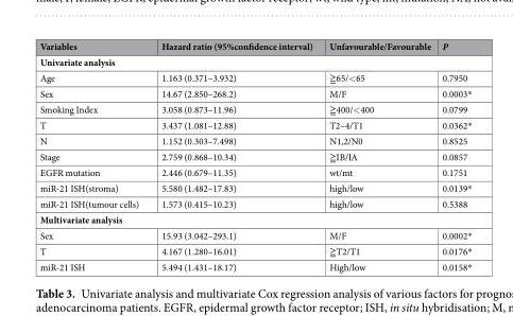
<table><thead><tr><td>Variables</td><td>Hazard ratio (95%confidence interval)</td><td>Unfavourable/Favourable</td><td>P</td></tr></thead><tbody><tr><td colspan="4">Univariate analysis</td></tr><tr><td>Age</td><td>1.163 (0.371–3.932)</td><td>≧65/&lt;65</td><td>0.7950</td></tr><tr><td>Sex</td><td>14.67 (2.850–268.2)</td><td>M/F</td><td>0.0003*</td></tr><tr><td>Smoking Index</td><td>3.058 (0.873–11.96)</td><td>≧400/&lt;400</td><td>0.0799</td></tr><tr><td>T</td><td>3.437 (1.081–12.88)</td><td>T2–4/T1</td><td>0.0362*</td></tr><tr><td>N</td><td>1.152 (0.303–7.498)</td><td>N1,2/N0</td><td>0.8525</td></tr><tr><td>Stage</td><td>2.759 (0.868–10.34)</td><td>≧IB/IA</td><td>0.0857</td></tr><tr><td>EGFR mutation</td><td>2.446 (0.679–11.35)</td><td>wt/mt</td><td>0.1751</td></tr><tr><td>miR-21 ISH(stroma)</td><td>5.580 (1.482–17.83)</td><td>high/low</td><td>0.0139*</td></tr><tr><td>miR-21 ISH(tumour cells)</td><td>1.573 (0.415–10.23)</td><td>high/low</td><td>0.5388</td></tr><tr><td colspan="4">Multivariate analysis</td></tr><tr><td>Sex</td><td>15.93 (3.042–293.1)</td><td>M/F</td><td>0.0002*</td></tr><tr><td>T</td><td>4.167 (1.280–16.01)</td><td>≧T2/T1</td><td>0.0176*</td></tr><tr><td>miR-21 ISH</td><td>5.494 (1.431–18.17)</td><td>High/low</td><td>0.0158*</td></tr></tbody></table>